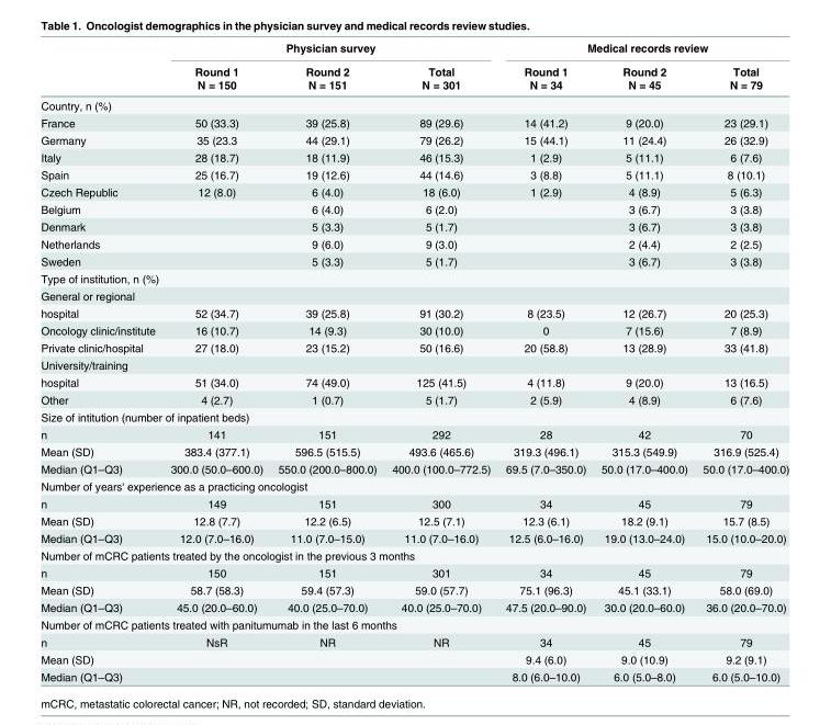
<table><thead><tr><td rowspan="3"></td><td colspan="3">Physician survey</td><td colspan="3">Medical records review</td></tr><tr><td rowspan="2">Round 1 N = 150</td><td rowspan="2">Round 2 N = 151</td><td rowspan="2">Total N = 301</td><td rowspan="2">Round 1 N = 34</td><td rowspan="2">Round 2 N = 45</td><td rowspan="2">Total N = 79</td></tr><tr></tr></thead><tbody><tr><td colspan="7">Country, n (%)</td></tr><tr><td>France</td><td>50 (33.3)</td><td>39 (25.8)</td><td>89 (29.6)</td><td>14 (41.2)</td><td>9 (20.0)</td><td>23 (29.1)</td></tr><tr><td>Germany</td><td>35 (23.3</td><td>44 (29.1)</td><td>79 (26.2)</td><td>15 (44.1)</td><td>11 (24.4)</td><td>26 (32.9)</td></tr><tr><td>Italy</td><td>28 (18.7)</td><td>18 (11.9)</td><td>46 (15.3)</td><td>1 (2.9)</td><td>5 (11.1)</td><td>6 (7.6)</td></tr><tr><td>Spain</td><td>25 (16.7)</td><td>19 (12.6)</td><td>44 (14.6)</td><td>3 (8.8)</td><td>5 (11.1)</td><td>8 (10.1)</td></tr><tr><td>Czech Republic</td><td>12 (8.0)</td><td>6 (4.0)</td><td>18 (6.0)</td><td>1 (2.9)</td><td>4 (8.9)</td><td>5 (6.3)</td></tr><tr><td>Belgium</td><td></td><td>6 (4.0)</td><td>6 (2.0)</td><td></td><td>3 (6.7)</td><td>3 (3.8)</td></tr><tr><td>Denmark</td><td></td><td>5 (3.3)</td><td>5 (1.7)</td><td></td><td>3 (6.7)</td><td>3 (3.8)</td></tr><tr><td>Netherlands</td><td></td><td>9 (6.0)</td><td>9 (3.0)</td><td></td><td>2 (4.4)</td><td>2 (2.5)</td></tr><tr><td>Sweden</td><td></td><td>5 (3.3)</td><td>5 (1.7)</td><td></td><td>3 (6.7)</td><td>3 (3.8)</td></tr><tr><td colspan="7">Type of institution, n (%)</td></tr><tr><td colspan="7">General or regional</td></tr><tr><td>hospital</td><td>52 (34.7)</td><td>39 (25.8)</td><td>91 (30.2)</td><td>8 (23.5)</td><td>12 (26.7)</td><td>20 (25.3)</td></tr><tr><td>Oncology clinic/institute</td><td>16 (10.7)</td><td>14 (9.3)</td><td>30 (10.0)</td><td>0</td><td>7 (15.6)</td><td>7 (8.9)</td></tr><tr><td>Private clinic/hospital</td><td>27 (18.0)</td><td>23 (15.2)</td><td>50 (16.6)</td><td>20 (58.8)</td><td>13 (28.9)</td><td>33 (41.8)</td></tr><tr><td colspan="7">University/training</td></tr><tr><td>hospital</td><td>51 (34.0)</td><td>74 (49.0)</td><td>125 (41.5)</td><td>4 (11.8)</td><td>9 (20.0)</td><td>13 (16.5)</td></tr><tr><td>Other</td><td>4 (2.7)</td><td>1 (0.7)</td><td>5 (1.7)</td><td>2 (5.9)</td><td>4 (8.9)</td><td>6 (7.6)</td></tr><tr><td colspan="7">Size of intitution (number of inpatient beds)</td></tr><tr><td>n</td><td>141</td><td>151</td><td>292</td><td>28</td><td>42</td><td>70</td></tr><tr><td>Mean (SD)</td><td>383.4 (377.1)</td><td>596.5 (515.5)</td><td>493.6 (465.6)</td><td>319.3 (496.1)</td><td>315.3 (549.9)</td><td>316.9 (525.4)</td></tr><tr><td>Median (Q1–Q3)</td><td>300.0 (50.0–600.0)</td><td>550.0 (200.0–800.0)</td><td>400.0 (100.0–772.5)</td><td>69.5 (7.0–350.0)</td><td>50.0 (17.0–400.0)</td><td>50.0 (17.0–400.0)</td></tr><tr><td colspan="7">Number of years&#x27; experience as a practicing oncologist</td></tr><tr><td>n</td><td>149</td><td>151</td><td>300</td><td>34</td><td>45</td><td>79</td></tr><tr><td>Mean (SD)</td><td>12.8 (7.7)</td><td>12.2 (6.5)</td><td>12.5 (7.1)</td><td>12.3 (6.1)</td><td>18.2 (9.1)</td><td>15.7 (8.5)</td></tr><tr><td>Median (Q1–Q3)</td><td>12.0 (7.0–16.0)</td><td>11.0 (7.0–15.0)</td><td>11.0 (7.0–16.0)</td><td>12.5 (6.0–16.0)</td><td>19.0 (13.0–24.0)</td><td>15.0 (10.0–20.0)</td></tr><tr><td colspan="7">Number of mCRC patients treated by the oncologist in the previous 3 months</td></tr><tr><td>n</td><td>150</td><td>151</td><td>301</td><td>34</td><td>45</td><td>79</td></tr><tr><td>Mean (SD)</td><td>58.7 (58.3)</td><td>59.4 (57.3)</td><td>59.0 (57.7)</td><td>75.1 (96.3)</td><td>45.1 (33.1)</td><td>58.0 (69.0)</td></tr><tr><td>Median (Q1–Q3)</td><td>45.0 (20.0–60.0)</td><td>40.0 (25.0–70.0)</td><td>40.0 (25.0–70.0)</td><td>47.5 (20.0–90.0)</td><td>30.0 (20.0–60.0)</td><td>36.0 (20.0–70.0)</td></tr><tr><td colspan="7">Number of mCRC patients treated with panitumumab in the last 6 months</td></tr><tr><td>n</td><td>NsR</td><td>NR</td><td>NR</td><td>34</td><td>45</td><td>79</td></tr><tr><td>Mean (SD)</td><td></td><td></td><td></td><td>9.4 (6.0)</td><td>9.0 (10.9)</td><td>9.2 (9.1)</td></tr><tr><td>Median (Q1–Q3)</td><td></td><td></td><td></td><td>8.0 (6.0–10.0)</td><td>6.0 (5.0–8.0)</td><td>6.0 (5.0–10.0)</td></tr></tbody></table>